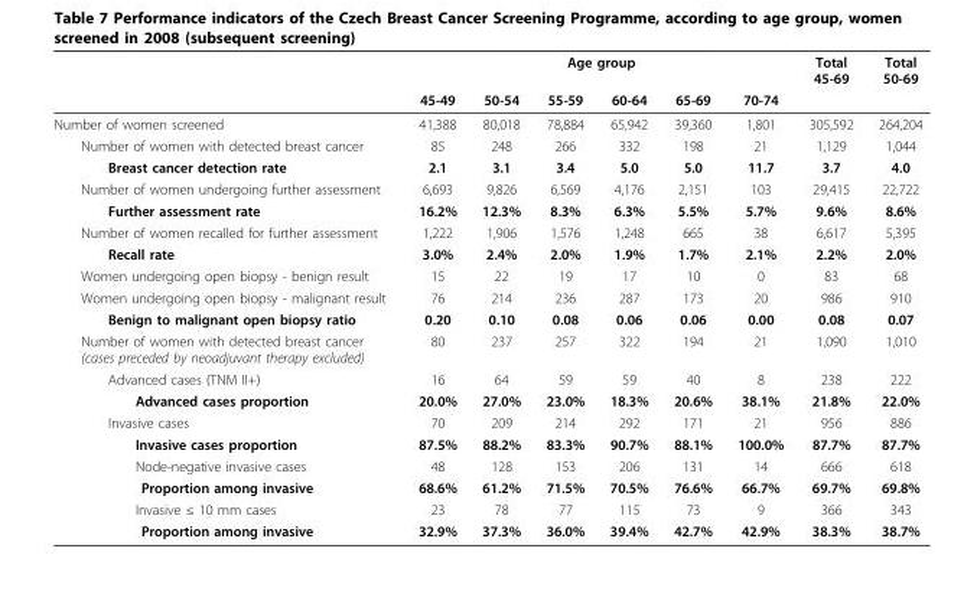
<table><thead><tr><td rowspan="2"></td><td colspan="6">Age group</td><td rowspan="2">Total 45-69</td><td rowspan="2">Total 50-69</td></tr><tr><td>45-49</td><td>50-54</td><td>55-59</td><td>60-64</td><td>65-69</td><td>70-74</td></tr></thead><tbody><tr><td>Number of women screened</td><td>41,388</td><td>80,018</td><td>78,884</td><td>65,942</td><td>39,360</td><td>1,801</td><td>305,592</td><td>264,204</td></tr><tr><td>Number of women with detected breast cancer</td><td>85</td><td>248</td><td>266</td><td>332</td><td>198</td><td>21</td><td>1,129</td><td>1,044</td></tr><tr><td>Breast cancer detection rate</td><td>2.1</td><td>3.1</td><td>3.4</td><td>5.0</td><td>5.0</td><td>11.7</td><td>3.7</td><td>4.0</td></tr><tr><td>Number of women undergoing further assessment</td><td>6,693</td><td>9,826</td><td>6,569</td><td>4,176</td><td>2,151</td><td>103</td><td>29,415</td><td>22,722</td></tr><tr><td>Further assessment rate</td><td>16.2%</td><td>12.3%</td><td>8.3%</td><td>6.3%</td><td>5.5%</td><td>5.7%</td><td>9.6%</td><td>8.6%</td></tr><tr><td>Number of women recalled for further assessment</td><td>1,222</td><td>1,906</td><td>1,576</td><td>1,248</td><td>665</td><td>38</td><td>6,617</td><td>5,395</td></tr><tr><td>Recall rate</td><td>3.0%</td><td>2.4%</td><td>2.0%</td><td>1.9%</td><td>1.7%</td><td>2.1%</td><td>2.2%</td><td>2.0%</td></tr><tr><td>Women undergoing open biopsy - benign result</td><td>15</td><td>22</td><td>19</td><td>17</td><td>10</td><td>0</td><td>83</td><td>68</td></tr><tr><td>Women undergoing open biopsy - malignant result</td><td>76</td><td>214</td><td>236</td><td>287</td><td>173</td><td>20</td><td>986</td><td>910</td></tr><tr><td>Benign to malignant open biopsy ratio</td><td>0.20</td><td>0.10</td><td>0.08</td><td>0.06</td><td>0.06</td><td>0.00</td><td>0.08</td><td>0.07</td></tr><tr><td>Number of women with detected breast cancer (cases preceded by neoadjuvant therapy excluded)</td><td>80</td><td>237</td><td>257</td><td>322</td><td>194</td><td>21</td><td>1,090</td><td>1,010</td></tr><tr><td>Advanced cases (TNM II+)</td><td>16</td><td>64</td><td>59</td><td>59</td><td>40</td><td>8</td><td>238</td><td>222</td></tr><tr><td>Advanced cases proportion</td><td>20.0%</td><td>27.0%</td><td>23.0%</td><td>18.3%</td><td>20.6%</td><td>38.1%</td><td>21.8%</td><td>22.0%</td></tr><tr><td>Invasive cases</td><td>70</td><td>209</td><td>214</td><td>292</td><td>171</td><td>21</td><td>956</td><td>886</td></tr><tr><td>Invasive cases proportion</td><td>87.5%</td><td>88.2%</td><td>83.3%</td><td>90.7%</td><td>88.1%</td><td>100.0%</td><td>87.7%</td><td>87.7%</td></tr><tr><td>Node-negative invasive cases</td><td>48</td><td>128</td><td>153</td><td>206</td><td>131</td><td>14</td><td>666</td><td>618</td></tr><tr><td>Proportion among invasive</td><td>68.6%</td><td>61.2%</td><td>71.5%</td><td>70.5%</td><td>76.6%</td><td>66.7%</td><td>69.7%</td><td>69.8%</td></tr><tr><td>Invasive ≤ 10 mm cases</td><td>23</td><td>78</td><td>77</td><td>115</td><td>73</td><td>9</td><td>366</td><td>343</td></tr><tr><td>Proportion among invasive</td><td>32.9%</td><td>37.3%</td><td>36.0%</td><td>39.4%</td><td>42.7%</td><td>42.9%</td><td>38.3%</td><td>38.7%</td></tr></tbody></table>